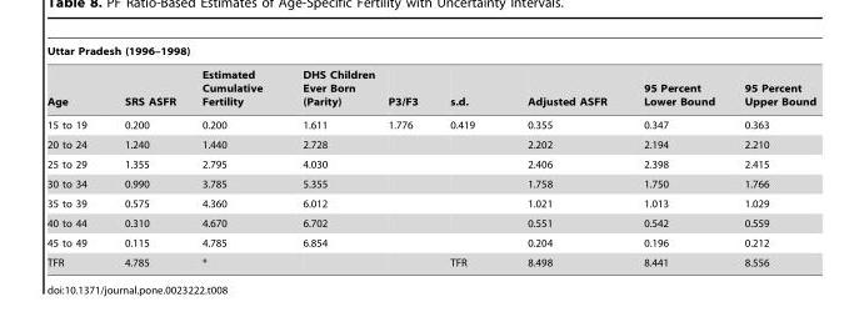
<table><thead><tr><td colspan="9">Uttar Pradesh (1996–1998)</td></tr><tr><td>Age</td><td>SRS ASFR</td><td>Estimated Cumulative Fertility</td><td>DHS Children Ever Born (Parity)</td><td>P3/F3</td><td>s.d.</td><td>Adjusted ASFR</td><td>95 Percent Lower Bound</td><td>95 Percent Upper Bound</td></tr></thead><tbody><tr><td>15 to 19</td><td>0.200</td><td>0.200</td><td>1.611</td><td>1.776</td><td>0.419</td><td>0.355</td><td>0.347</td><td>0.363</td></tr><tr><td>20 to 24</td><td>1.240</td><td>1.440</td><td>2.728</td><td></td><td></td><td>2.202</td><td>2.194</td><td>2.210</td></tr><tr><td>25 to 29</td><td>1.355</td><td>2.795</td><td>4.030</td><td></td><td></td><td>2.406</td><td>2.398</td><td>2.415</td></tr><tr><td>30 to 34</td><td>0.990</td><td>3.785</td><td>5.355</td><td></td><td></td><td>1.758</td><td>1.750</td><td>1.766</td></tr><tr><td>35 to 39</td><td>0.575</td><td>4.360</td><td>6.012</td><td></td><td></td><td>1.021</td><td>1.013</td><td>1.029</td></tr><tr><td>40 to 44</td><td>0.310</td><td>4.670</td><td>6.702</td><td></td><td></td><td>0.551</td><td>0.542</td><td>0.559</td></tr><tr><td>45 to 49</td><td>0.115</td><td>4.785</td><td>6.854</td><td></td><td></td><td>0.204</td><td>0.196</td><td>0.212</td></tr><tr><td>TFR</td><td>4.785</td><td>*</td><td></td><td></td><td>TFR</td><td>8.498</td><td>8.441</td><td>8.556</td></tr></tbody></table>